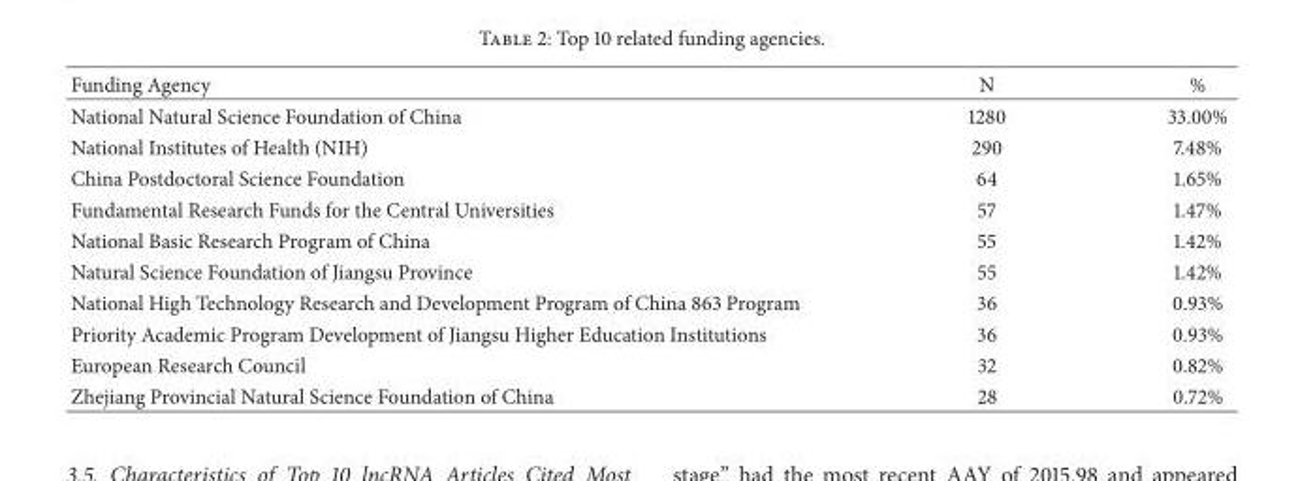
<table><thead><tr><td>Funding Agency</td><td>N</td><td>%</td></tr></thead><tbody><tr><td>National Natural Science Foundation of China</td><td>1280</td><td>33.00%</td></tr><tr><td>National Institutes of Health (NIH)</td><td>290</td><td>7.48%</td></tr><tr><td>China Postdoctoral Science Foundation</td><td>64</td><td>1.65%</td></tr><tr><td>Fundamental Research Funds for the Central Universities</td><td>57</td><td>1.47%</td></tr><tr><td>National Basic Research Program of China</td><td>55</td><td>1.42%</td></tr><tr><td>Natural Science Foundation of Jiangsu Province</td><td>55</td><td>1.42%</td></tr><tr><td>National High Technology Research and Development Program of China 863 Program</td><td>36</td><td>0.93%</td></tr><tr><td>Priority Academic Program Development of Jiangsu Higher Education Institutions</td><td>36</td><td>0.93%</td></tr><tr><td>European Research Council</td><td>32</td><td>0.82%</td></tr><tr><td>Zhejiang Provincial Natural Science Foundation of China</td><td>28</td><td>0.72%</td></tr></tbody></table>